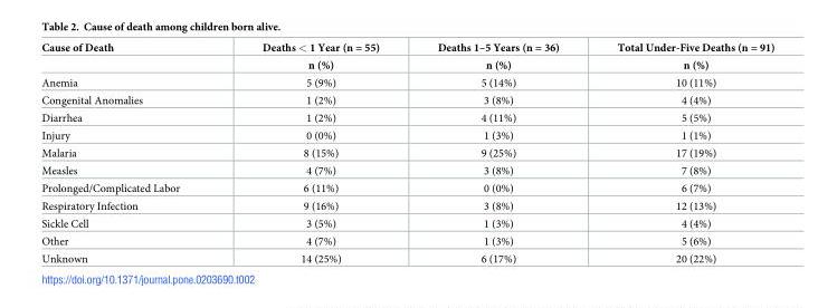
<table><thead><tr><td rowspan="2">Cause of Death</td><td rowspan="2">Deaths &lt; 1 Year (n = 55) n (%)</td><td rowspan="2">Deaths 1–5 Years (n = 36) n (%)</td><td rowspan="2">Total Under-Five Deaths (n = 91) n (%)</td></tr><tr></tr></thead><tbody><tr><td>Anemia</td><td>5 (9%)</td><td>5 (14%)</td><td>10 (11%)</td></tr><tr><td>Congenital Anomalies</td><td>1 (2%)</td><td>3 (8%)</td><td>4 (4%)</td></tr><tr><td>Diarrhea</td><td>1 (2%)</td><td>4 (11%)</td><td>5 (5%)</td></tr><tr><td>Injury</td><td>0 (0%)</td><td>1 (3%)</td><td>1 (1%)</td></tr><tr><td>Malaria</td><td>8 (15%)</td><td>9 (25%)</td><td>17 (19%)</td></tr><tr><td>Measles</td><td>4 (7%)</td><td>3 (8%)</td><td>7 (8%)</td></tr><tr><td>Prolonged/Complicated Labor</td><td>6 (11%)</td><td>0 (0%)</td><td>6 (7%)</td></tr><tr><td>Respiratory Infection</td><td>9 (16%)</td><td>3 (8%)</td><td>12 (13%)</td></tr><tr><td>Sickle Cell</td><td>3 (5%)</td><td>1 (3%)</td><td>4 (4%)</td></tr><tr><td>Other</td><td>4 (7%)</td><td>1 (3%)</td><td>5 (6%)</td></tr><tr><td>Unknown</td><td>14 (25%)</td><td>6 (17%)</td><td>20 (22%)</td></tr></tbody></table>